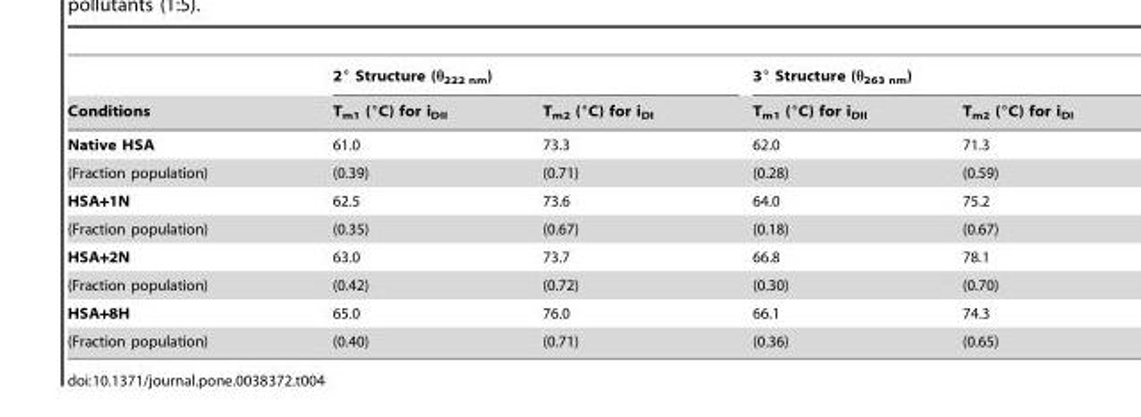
<table><thead><tr><td rowspan="2">Conditions</td><td colspan="2">2° Structure (θ<sub>222 nm</sub>)</td><td colspan="2">3° Structure (θ<sub>263 nm</sub>)</td></tr><tr><td>T<sub>m1</sub> (°C) for i<sub>DII</sub></td><td>T<sub>m2</sub> (°C) for i<sub>DI</sub></td><td>T<sub>m1</sub> (°C) for i<sub>DII</sub></td><td>T<sub>m2</sub> (°C) for i<sub>DI</sub></td></tr></thead><tbody><tr><td>Native HSA</td><td>61.0</td><td>73.3</td><td>62.0</td><td>71.3</td></tr><tr><td>(Fraction population)</td><td>(0.39)</td><td>(0.71)</td><td>(0.28)</td><td>(0.59)</td></tr><tr><td>HSA+1N</td><td>62.5</td><td>73.6</td><td>64.0</td><td>75.2</td></tr><tr><td>(Fraction population)</td><td>(0.35)</td><td>(0.67)</td><td>(0.18)</td><td>(0.67)</td></tr><tr><td>HSA+2N</td><td>63.0</td><td>73.7</td><td>66.8</td><td>78.1</td></tr><tr><td>(Fraction population)</td><td>(0.42)</td><td>(0.72)</td><td>(0.30)</td><td>(0.70)</td></tr><tr><td>HSA+8H</td><td>65.0</td><td>76.0</td><td>66.1</td><td>74.3</td></tr><tr><td>(Fraction population)</td><td>(0.40)</td><td>(0.71)</td><td>(0.36)</td><td>(0.65)</td></tr></tbody></table>